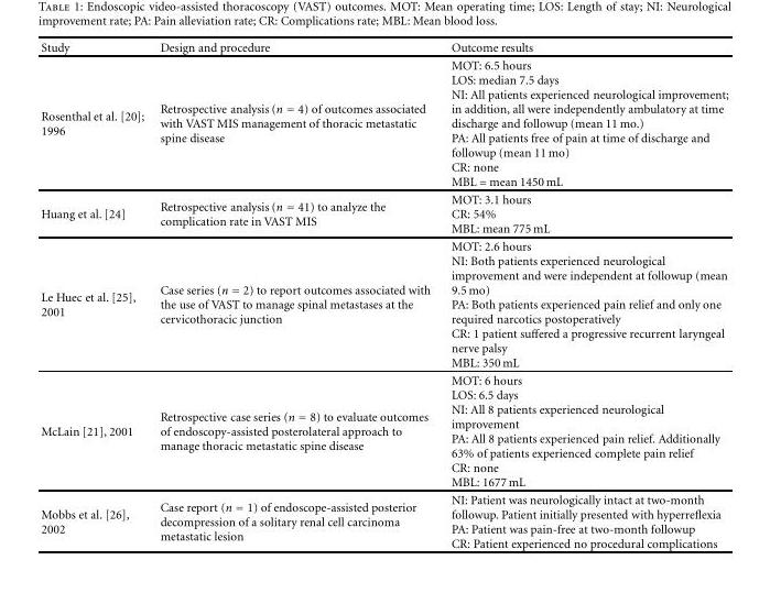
<table><thead><tr><td>Study</td><td>Design and procedure</td><td>Outcome results</td></tr></thead><tbody><tr><td>Rosenthal et al. [20]; 1996</td><td>Retrospective analysis (n = 4) of outcomes associated with VAST MIS management of thoracic metastatic spine disease</td><td>MOT: 6.5 hours LOS: median 7.5 days NI: All patients experienced neurological improvement; in addition, all were independently ambulatory at time discharge and followup (mean 11 mo.) PA: All patients free of pain at time of discharge and followup (mean 11 mo) CR: none MBL = mean 1450 mL</td></tr><tr><td>Huang et al. [24]</td><td>Retrospective analysis (n = 41) to analyze the complication rate in VAST MIS</td><td>MOT: 3.1 hours CR: 54% MBL: mean 775 mL</td></tr><tr><td>Le Huec et al. [25], 2001</td><td>Case series (n = 2) to report outcomes associated with the use of VAST to manage spinal metastases at the cervicothoracic junction</td><td>MOT: 2.6 hours NI: Both patients experienced neurological improvement and were independent at followup (mean 9.5 mo) PA: Both patients experienced pain relief and only one required narcotics postoperatively CR: 1 patient suffered a progressive recurrent laryngeal nerve palsy MBL: 350 mL</td></tr><tr><td>McLain [21], 2001</td><td>Retrospective case series (n = 8) to evaluate outcomes of endoscopy-assisted posterolateral approach to manage thoracic metastatic spine disease</td><td>MOT: 6 hours LOS: 6.5 days NI: All 8 patients experienced neurological improvement PA: All 8 patients experienced pain relief. Additionally 63% of patients experienced complete pain relief CR: none MBL: 1677 mL</td></tr><tr><td>Mobbs et al. [26], 2002</td><td>Case report (n = 1) of endoscope-assisted posterior decompression of a solitary renal cell carcinoma metastatic lesion</td><td>NI: Patient was neurologically intact at two-month followup. Patient initially presented with hyperreflexia PA: Patient was pain-free at two-month followup CR: Patient experienced no procedural complications</td></tr></tbody></table>